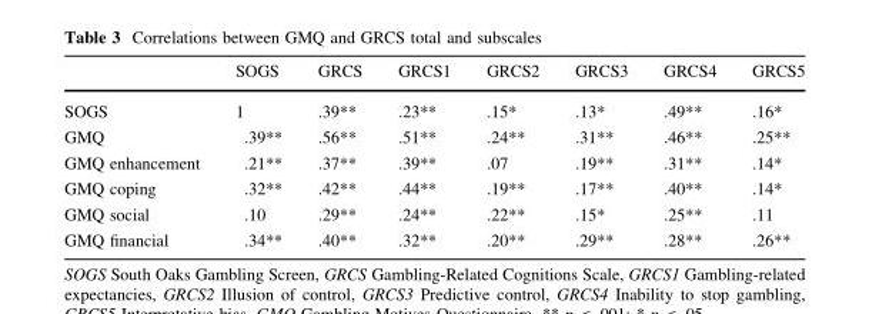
<table><thead><tr><td></td><td>SOGS</td><td>GRCS</td><td>GRCS1</td><td>GRCS2</td><td>GRCS3</td><td>GRCS4</td><td>GRCS5</td></tr></thead><tbody><tr><td>SOGS</td><td>1</td><td>.39**</td><td>.23**</td><td>.15*</td><td>.13*</td><td>.49**</td><td>.16*</td></tr><tr><td>GMQ</td><td>.39**</td><td>.56**</td><td>.51**</td><td>.24**</td><td>.31**</td><td>.46**</td><td>.25**</td></tr><tr><td>GMQ enhancement</td><td>.21**</td><td>.37**</td><td>.39**</td><td>.07</td><td>.19**</td><td>.31**</td><td>.14*</td></tr><tr><td>GMQ coping</td><td>.32**</td><td>.42**</td><td>.44**</td><td>.19**</td><td>.17**</td><td>.40**</td><td>.14*</td></tr><tr><td>GMQ social</td><td>.10</td><td>.29**</td><td>.24**</td><td>.22**</td><td>.15*</td><td>.25**</td><td>.11</td></tr><tr><td>GMQ financial</td><td>.34**</td><td>.40**</td><td>.32**</td><td>.20**</td><td>.29**</td><td>.28**</td><td>.26**</td></tr></tbody></table>